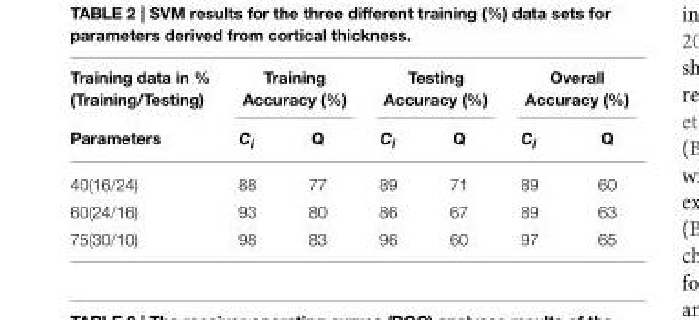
<table><thead><tr><td rowspan="2">Training data in % (Training/Testing) Parameters</td><td colspan="2">Training Accuracy (%)</td><td colspan="2">Testing Accuracy (%)</td><td colspan="2">Overall Accuracy (%)</td></tr><tr><td>C<sub>i</sub></td><td>Q</td><td>C<sub>i</sub></td><td>Q</td><td>C<sub>i</sub></td><td>Q</td></tr></thead><tbody><tr><td>40(16/24)</td><td>88</td><td>77</td><td>89</td><td>71</td><td>89</td><td>60</td></tr><tr><td>60(24/16)</td><td>93</td><td>80</td><td>86</td><td>67</td><td>89</td><td>63</td></tr><tr><td>75(30/10)</td><td>98</td><td>83</td><td>96</td><td>60</td><td>97</td><td>65</td></tr></tbody></table>